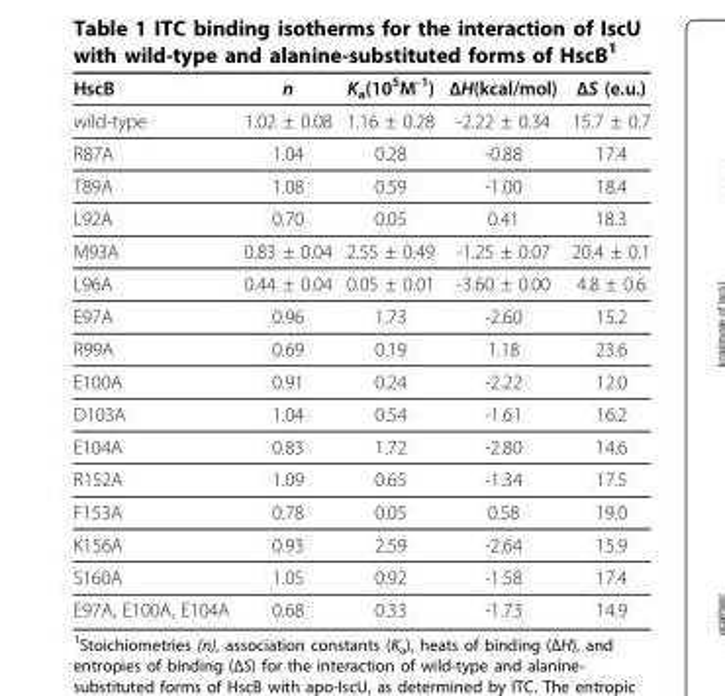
<table><thead><tr><td>HscB</td><td>n</td><td>K<sub>a</sub>(10<sup>5</sup>M<sup>-1</sup>)</td><td>ΔH(kcal/mol)</td><td>ΔS (e.u.)</td></tr></thead><tbody><tr><td>wild-type</td><td>1.02 ± 0.08</td><td>1.16 ± 0.28</td><td>-2.22 ± 0.34</td><td>15.7 ± 0.7</td></tr><tr><td>R87A</td><td>1.04</td><td>0.28</td><td>-0.88</td><td>17.4</td></tr><tr><td>T89A</td><td>1.08</td><td>0.59</td><td>-1.00</td><td>18.4</td></tr><tr><td>L92A</td><td>0.70</td><td>0.05</td><td>0.41</td><td>18.3</td></tr><tr><td>M93A</td><td>0.83 ± 0.04</td><td>2.55 ± 0.49</td><td>-1.25 ± 0.07</td><td>20.4 ± 0.1</td></tr><tr><td>L96A</td><td>0.44 ± 0.04</td><td>0.05 ± 0.01</td><td>-3.60 ± 0.00</td><td>4.8 ± 0.6</td></tr><tr><td>E97A</td><td>0.96</td><td>1.73</td><td>-2.60</td><td>15.2</td></tr><tr><td>R99A</td><td>0.69</td><td>0.19</td><td>1.18</td><td>23.6</td></tr><tr><td>E100A</td><td>0.91</td><td>0.24</td><td>-2.22</td><td>12.0</td></tr><tr><td>D103A</td><td>1.04</td><td>0.54</td><td>-1.61</td><td>16.2</td></tr><tr><td>E104A</td><td>0.83</td><td>1.72</td><td>-2.80</td><td>14.6</td></tr><tr><td>R152A</td><td>1.09</td><td>0.65</td><td>-1.34</td><td>17.5</td></tr><tr><td>F153A</td><td>0.78</td><td>0.05</td><td>0.58</td><td>19.0</td></tr><tr><td>K156A</td><td>0.93</td><td>2.59</td><td>-2.64</td><td>15.9</td></tr><tr><td>S160A</td><td>1.05</td><td>0.92</td><td>-1.58</td><td>17.4</td></tr><tr><td>E97A, E100A, E104A</td><td>0.68</td><td>0.33</td><td>-1.73</td><td>14.9</td></tr></tbody></table>